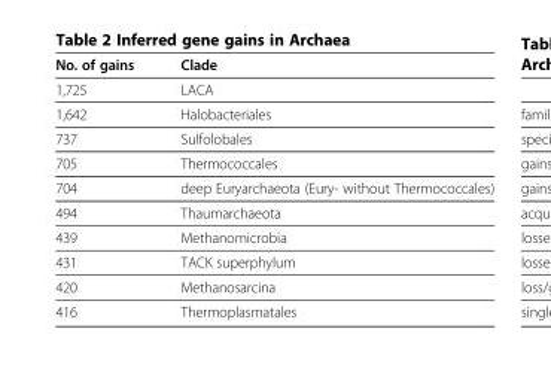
<table><thead><tr><td>No. of gains</td><td>Clade</td></tr></thead><tbody><tr><td>1,725</td><td>LACA</td></tr><tr><td>1,642</td><td>Halobacteriales</td></tr><tr><td>737</td><td>Sulfolobales</td></tr><tr><td>705</td><td>Thermococcales</td></tr><tr><td>704</td><td>deep Euryarchaeota (Eury- without Thermococcales)</td></tr><tr><td>494</td><td>Thaumarchaeota</td></tr><tr><td>439</td><td>Methanomicrobia</td></tr><tr><td>431</td><td>TACK superphylum</td></tr><tr><td>420</td><td>Methanosarcina</td></tr><tr><td>416</td><td>Thermoplasmatales</td></tr></tbody></table>